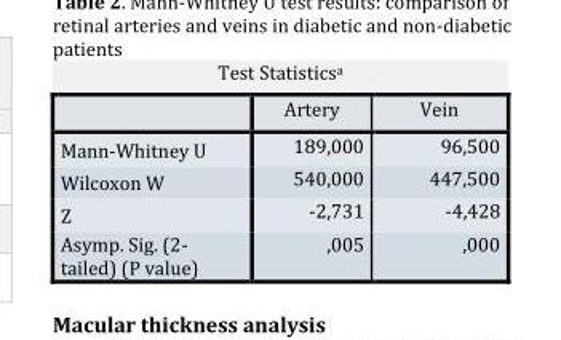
<table><thead><tr><td></td><td>Test Statisticsa</td><td></td></tr></thead><tbody><tr><td></td><td>Artery</td><td>Vein</td></tr><tr><td>Mann-Whitney U</td><td>189,000</td><td>96,500</td></tr><tr><td>Wilcoxon W</td><td>540,000</td><td>447,500</td></tr><tr><td>Z</td><td>-2,731</td><td>-4,428</td></tr><tr><td>Asymp. Sig. (2- tailed) (P value)</td><td>,005</td><td>,000</td></tr></tbody></table>